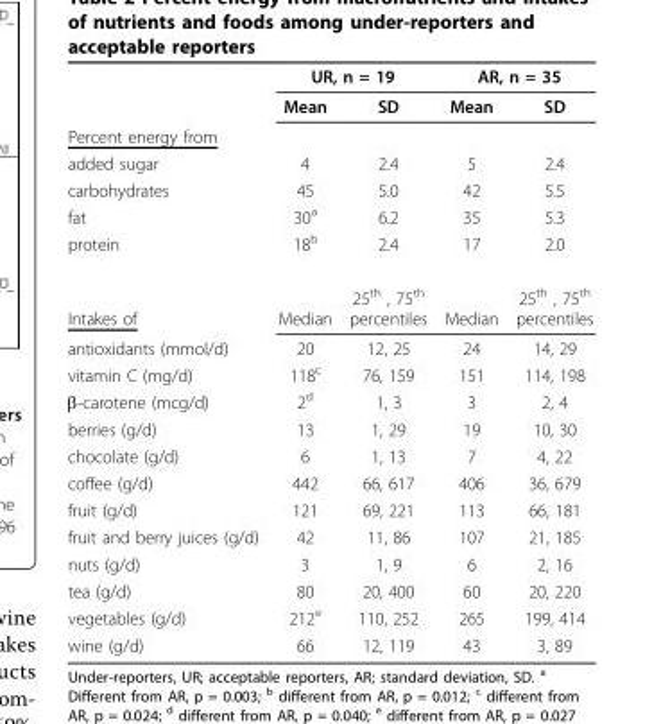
<table><thead><tr><td rowspan="2"></td><td colspan="2">UR, n = 19</td><td colspan="2">AR, n = 35</td></tr><tr><td>Mean</td><td>SD</td><td>Mean</td><td>SD</td></tr></thead><tbody><tr><td colspan="5">Percent energy from</td></tr><tr><td>added sugar</td><td>4</td><td>2.4</td><td>5</td><td>2.4</td></tr><tr><td>carbohydrates</td><td>45</td><td>5.0</td><td>42</td><td>5.5</td></tr><tr><td>fat</td><td>30<sup>a</sup></td><td>6.2</td><td>35</td><td>5.3</td></tr><tr><td>protein</td><td>18<sup>b</sup></td><td>2.4</td><td>17</td><td>2.0</td></tr><tr><td>Intakes of</td><td>Median</td><td>25<sup>th</sup> , 75<sup>th</sup> percentiles</td><td>Median</td><td>25<sup>th</sup> , 75<sup>th</sup> percentiles</td></tr><tr><td>antioxidants (mmol/d)</td><td>20</td><td>12, 25</td><td>24</td><td>14, 29</td></tr><tr><td>vitamin C (mg/d)</td><td>118<sup>c</sup></td><td>76, 159</td><td>151</td><td>114, 198</td></tr><tr><td>β-carotene (mcg/d)</td><td>2<sup>d</sup></td><td>1, 3</td><td>3</td><td>2, 4</td></tr><tr><td>berries (g/d)</td><td>13</td><td>1, 29</td><td>19</td><td>10, 30</td></tr><tr><td>chocolate (g/d)</td><td>6</td><td>1, 13</td><td>7</td><td>4, 22</td></tr><tr><td>coffee (g/d)</td><td>442</td><td>66, 617</td><td>406</td><td>36, 679</td></tr><tr><td>fruit (g/d)</td><td>121</td><td>69, 221</td><td>113</td><td>66, 181</td></tr><tr><td>fruit and berry juices (g/d)</td><td>42</td><td>11, 86</td><td>107</td><td>21, 185</td></tr><tr><td>nuts (g/d)</td><td>3</td><td>1, 9</td><td>6</td><td>2, 16</td></tr><tr><td>tea (g/d)</td><td>80</td><td>20, 400</td><td>60</td><td>20, 220</td></tr><tr><td>vegetables (g/d)</td><td>212<sup>e</sup></td><td>110, 252</td><td>265</td><td>199, 414</td></tr><tr><td>wine (g/d)</td><td>66</td><td>12, 119</td><td>43</td><td>3, 89</td></tr></tbody></table>